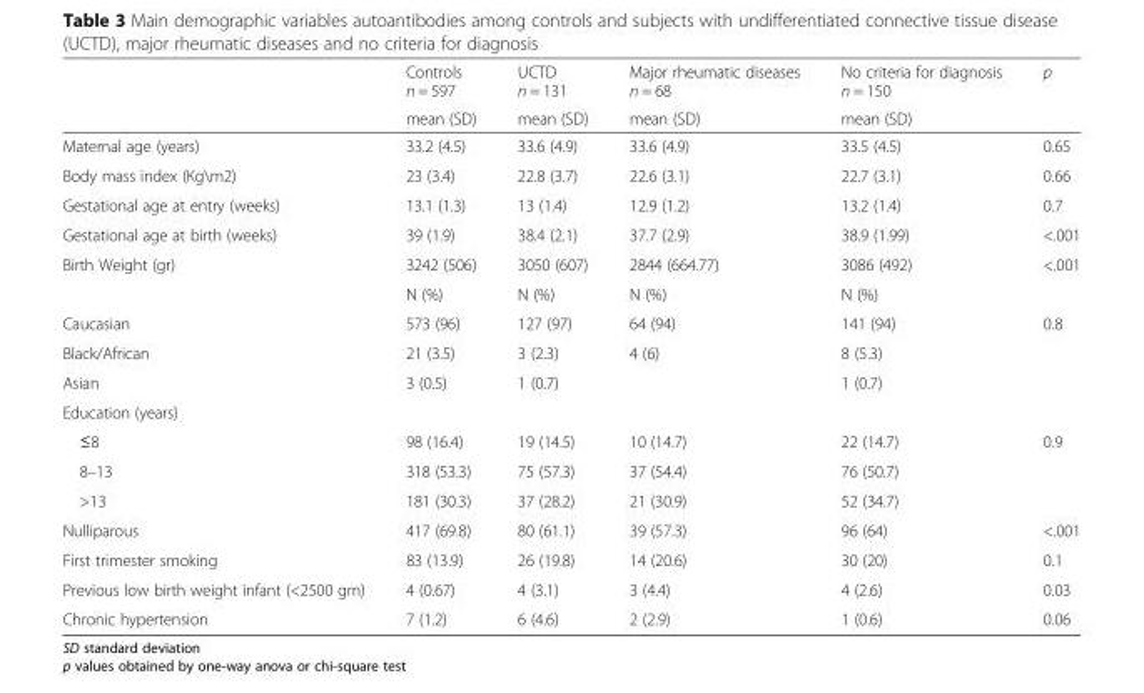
<table><thead><tr><td rowspan="2"></td><td rowspan="2">Controls n = 597 mean (SD)</td><td rowspan="2">UCTD n = 131 mean (SD)</td><td rowspan="2">Major rheumatic diseases n = 68 mean (SD)</td><td rowspan="2">No criteria for diagnosis n = 150 mean (SD)</td><td rowspan="2">p</td></tr><tr></tr></thead><tbody><tr><td>Maternal age (years)</td><td>33.2 (4.5)</td><td>33.6 (4.9)</td><td>33.6 (4.9)</td><td>33.5 (4.5)</td><td>0.65</td></tr><tr><td>Body mass index (Kg\m2)</td><td>23 (3.4)</td><td>22.8 (3.7)</td><td>22.6 (3.1)</td><td>22.7 (3.1)</td><td>0.66</td></tr><tr><td>Gestational age at entry (weeks)</td><td>13.1 (1.3)</td><td>13 (1.4)</td><td>12.9 (1.2)</td><td>13.2 (1.4)</td><td>0.7</td></tr><tr><td>Gestational age at birth (weeks)</td><td>39 (1.9)</td><td>38.4 (2.1)</td><td>37.7 (2.9)</td><td>38.9 (1.99)</td><td>&lt;.001</td></tr><tr><td rowspan="2">Birth Weight (gr)</td><td>3242 (506)</td><td>3050 (607)</td><td>2844 (664.77)</td><td>3086 (492)</td><td>&lt;.001</td></tr><tr><td>N (%)</td><td>N (%)</td><td>N (%)</td><td>N (%)</td><td></td></tr><tr><td>Caucasian</td><td>573 (96)</td><td>127 (97)</td><td>64 (94)</td><td>141 (94)</td><td rowspan="3">0.8</td></tr><tr><td>Black/African</td><td>21 (3.5)</td><td>3 (2.3)</td><td>4 (6)</td><td>8 (5.3)</td></tr><tr><td>Asian</td><td>3 (0.5)</td><td>1 (0.7)</td><td></td><td>1 (0.7)</td></tr><tr><td colspan="6">Education (years)</td></tr><tr><td>≤8</td><td>98 (16.4)</td><td>19 (14.5)</td><td>10 (14.7)</td><td>22 (14.7)</td><td rowspan="3">0.9</td></tr><tr><td>8–13</td><td>318 (53.3)</td><td>75 (57.3)</td><td>37 (54.4)</td><td>76 (50.7)</td></tr><tr><td>&gt;13</td><td>181 (30.3)</td><td>37 (28.2)</td><td>21 (30.9)</td><td>52 (34.7)</td></tr><tr><td>Nulliparous</td><td>417 (69.8)</td><td>80 (61.1)</td><td>39 (57.3)</td><td>96 (64)</td><td>&lt;.001</td></tr><tr><td>First trimester smoking</td><td>83 (13.9)</td><td>26 (19.8)</td><td>14 (20.6)</td><td>30 (20)</td><td>0.1</td></tr><tr><td>Previous low birth weight infant (&lt;2500 gm)</td><td>4 (0.67)</td><td>4 (3.1)</td><td>3 (4.4)</td><td>4 (2.6)</td><td>0.03</td></tr><tr><td>Chronic hypertension</td><td>7 (1.2)</td><td>6 (4.6)</td><td>2 (2.9)</td><td>1 (0.6)</td><td>0.06</td></tr></tbody></table>